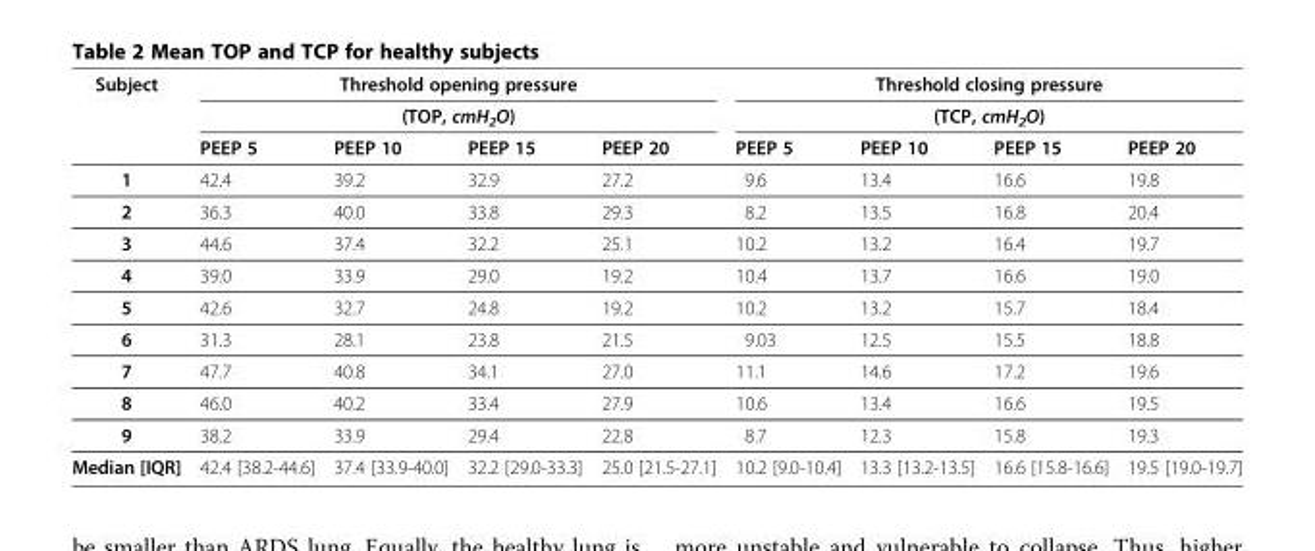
<table><thead><tr><td rowspan="3">Subject</td><td rowspan="2" colspan="4">Threshold opening pressure (TOP, cmH<sub>2</sub>O)</td><td rowspan="2" colspan="4">Threshold closing pressure (TCP, cmH<sub>2</sub>O)</td></tr><tr></tr><tr><td>PEEP 5</td><td>PEEP 10</td><td>PEEP 15</td><td>PEEP 20</td><td>PEEP 5</td><td>PEEP 10</td><td>PEEP 15</td><td>PEEP 20</td></tr></thead><tbody><tr><td>1</td><td>42.4</td><td>39.2</td><td>32.9</td><td>27.2</td><td>9.6</td><td>13.4</td><td>16.6</td><td>19.8</td></tr><tr><td>2</td><td>36.3</td><td>40.0</td><td>33.8</td><td>29.3</td><td>8.2</td><td>13.5</td><td>16.8</td><td>20.4</td></tr><tr><td>3</td><td>44.6</td><td>37.4</td><td>32.2</td><td>25.1</td><td>10.2</td><td>13.2</td><td>16.4</td><td>19.7</td></tr><tr><td>4</td><td>39.0</td><td>33.9</td><td>29.0</td><td>19.2</td><td>10.4</td><td>13.7</td><td>16.6</td><td>19.0</td></tr><tr><td>5</td><td>42.6</td><td>32.7</td><td>24.8</td><td>19.2</td><td>10.2</td><td>13.2</td><td>15.7</td><td>18.4</td></tr><tr><td>6</td><td>31.3</td><td>28.1</td><td>23.8</td><td>21.5</td><td>9.03</td><td>12.5</td><td>15.5</td><td>18.8</td></tr><tr><td>7</td><td>47.7</td><td>40.8</td><td>34.1</td><td>27.0</td><td>11.1</td><td>14.6</td><td>17.2</td><td>19.6</td></tr><tr><td>8</td><td>46.0</td><td>40.2</td><td>33.4</td><td>27.9</td><td>10.6</td><td>13.4</td><td>16.6</td><td>19.5</td></tr><tr><td>9</td><td>38.2</td><td>33.9</td><td>29.4</td><td>22.8</td><td>8.7</td><td>12.3</td><td>15.8</td><td>19.3</td></tr><tr><td>Median [IQR]</td><td>42.4 [38.2-44.6]</td><td>37.4 [33.9-40.0]</td><td>32.2 [29.0-33.3]</td><td>25.0 [21.5-27.1]</td><td>10.2 [9.0-10.4]</td><td>13.3 [13.2-13.5]</td><td>16.6 [15.8-16.6]</td><td>19.5 [19.0-19.7]</td></tr></tbody></table>